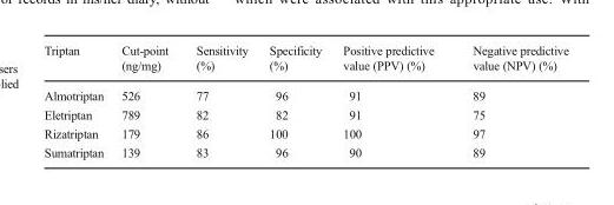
<table><thead><tr><td>Triptan</td><td>Cut-point (ng/mg)</td><td>Sensitivity (%)</td><td>Specificity (%)</td><td>Positive predictive value (PPV) (%)</td><td>Negative predictive value (NPV) (%)</td></tr></thead><tbody><tr><td>Almotriptan</td><td>526</td><td>77</td><td>96</td><td>91</td><td>89</td></tr><tr><td>Eletriptan</td><td>789</td><td>82</td><td>82</td><td>91</td><td>75</td></tr><tr><td>Rizatriptan</td><td>179</td><td>86</td><td>100</td><td>100</td><td>97</td></tr><tr><td>Sumatriptan</td><td>139</td><td>83</td><td>96</td><td>90</td><td>89</td></tr></tbody></table>